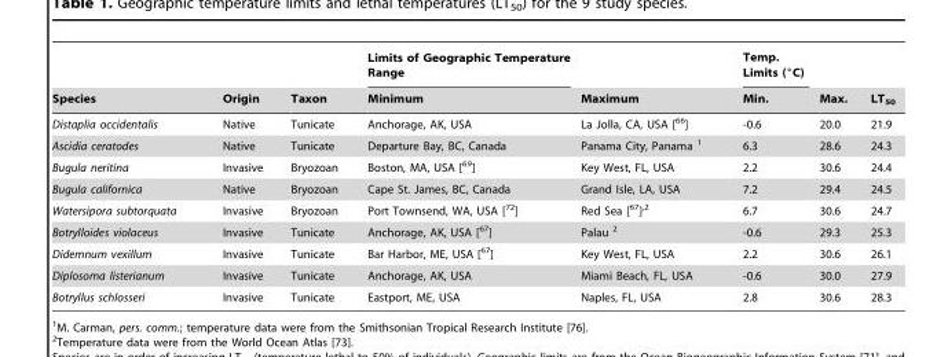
<table><thead><tr><td rowspan="2">Species</td><td rowspan="2">Origin</td><td rowspan="2">Taxon</td><td rowspan="2">Limits of Geographic Temperature Range Minimum</td><td rowspan="2">Maximum</td><td rowspan="2">Temp. Limits (°C) Min.</td><td rowspan="2">Max.</td><td rowspan="2">LT<sub>50</sub></td></tr><tr></tr></thead><tbody><tr><td>Distaplia occidentalis</td><td>Native</td><td>Tunicate</td><td>Anchorage, AK, USA</td><td>La Jolla, CA, USA [<sup>66</sup>]</td><td>-0.6</td><td>20.0</td><td>21.9</td></tr><tr><td>Ascidia ceratodes</td><td>Native</td><td>Tunicate</td><td>Departure Bay, BC, Canada</td><td>Panama City, Panama 1</td><td>6.3</td><td>28.6</td><td>24.3</td></tr><tr><td>Bugula neritina</td><td>Invasive</td><td>Bryozoan</td><td>Boston, MA, USA [<sup>69</sup>]</td><td>Key West, FL, USA</td><td>2.2</td><td>30.6</td><td>24.4</td></tr><tr><td>Bugula californica</td><td>Native</td><td>Bryozoan</td><td>Cape St. James, BC, Canada</td><td>Grand Isle, LA, USA</td><td>7.2</td><td>29.4</td><td>24.5</td></tr><tr><td>Watersipora subtorquata</td><td>Invasive</td><td>Bryozoan</td><td>Port Townsend, WA, USA [<sup>72</sup>]</td><td>Red Sea [<sup>67</sup>]<sup>,</sup>2</td><td>6.7</td><td>30.6</td><td>24.7</td></tr><tr><td>Botrylloides violaceus</td><td>Invasive</td><td>Tunicate</td><td>Anchorage, AK, USA [<sup>67</sup>]</td><td>Palau 2</td><td>-0.6</td><td>29.3</td><td>25.3</td></tr><tr><td>Didemnum vexillum</td><td>Invasive</td><td>Tunicate</td><td>Bar Harbor, ME, USA [<sup>67</sup>]</td><td>Key West, FL, USA</td><td>2.2</td><td>30.6</td><td>26.1</td></tr><tr><td>Diplosoma listerianum</td><td>Invasive</td><td>Tunicate</td><td>Anchorage, AK, USA</td><td>Miami Beach, FL, USA</td><td>-0.6</td><td>30.0</td><td>27.9</td></tr><tr><td>Botryllus schlosseri</td><td>Invasive</td><td>Tunicate</td><td>Eastport, ME, USA</td><td>Naples, FL, USA</td><td>2.8</td><td>30.6</td><td>28.3</td></tr></tbody></table>